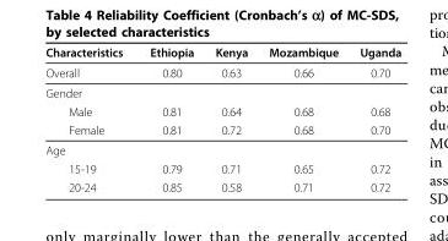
<table><thead><tr><td>Characteristics</td><td>Ethiopia</td><td>Kenya</td><td>Mozambique</td><td>Uganda</td></tr></thead><tbody><tr><td>Overall</td><td>0.80</td><td>0.63</td><td>0.66</td><td>0.70</td></tr><tr><td colspan="5">Gender</td></tr><tr><td>Male</td><td>0.81</td><td>0.64</td><td>0.68</td><td>0.68</td></tr><tr><td>Female</td><td>0.81</td><td>0.72</td><td>0.68</td><td>0.70</td></tr><tr><td colspan="5">Age</td></tr><tr><td>15-19</td><td>0.79</td><td>0.71</td><td>0.65</td><td>0.72</td></tr><tr><td>20-24</td><td>0.85</td><td>0.58</td><td>0.71</td><td>0.72</td></tr></tbody></table>